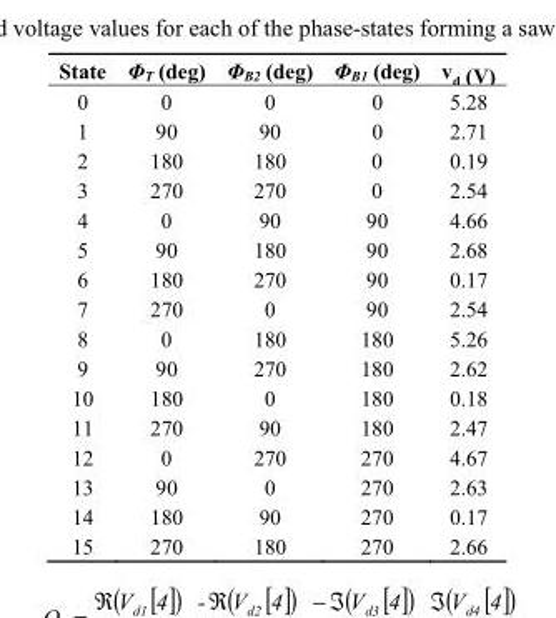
<table><thead><tr><td>State</td><td>Φ<sub>T</sub> (deg)</td><td>Φ<sub>B2</sub> (deg)</td><td>Φ<sub>B1</sub> (deg)</td><td>v<sub>d</sub> (V)</td></tr></thead><tbody><tr><td>0</td><td>0</td><td>0</td><td>0</td><td>5.28</td></tr><tr><td>1</td><td>90</td><td>90</td><td>0</td><td>2.71</td></tr><tr><td>2</td><td>180</td><td>180</td><td>0</td><td>0.19</td></tr><tr><td>3</td><td>270</td><td>270</td><td>0</td><td>2.54</td></tr><tr><td>4</td><td>0</td><td>90</td><td>90</td><td>4.66</td></tr><tr><td>5</td><td>90</td><td>180</td><td>90</td><td>2.68</td></tr><tr><td>6</td><td>180</td><td>270</td><td>90</td><td>0.17</td></tr><tr><td>7</td><td>270</td><td>0</td><td>90</td><td>2.54</td></tr><tr><td>8</td><td>0</td><td>180</td><td>180</td><td>5.26</td></tr><tr><td>9</td><td>90</td><td>270</td><td>180</td><td>2.62</td></tr><tr><td>10</td><td>180</td><td>0</td><td>180</td><td>0.18</td></tr><tr><td>11</td><td>270</td><td>90</td><td>180</td><td>2.47</td></tr><tr><td>12</td><td>0</td><td>270</td><td>270</td><td>4.67</td></tr><tr><td>13</td><td>90</td><td>0</td><td>270</td><td>2.63</td></tr><tr><td>14</td><td>180</td><td>90</td><td>270</td><td>0.17</td></tr><tr><td>15</td><td>270</td><td>180</td><td>270</td><td>2.66</td></tr></tbody></table>